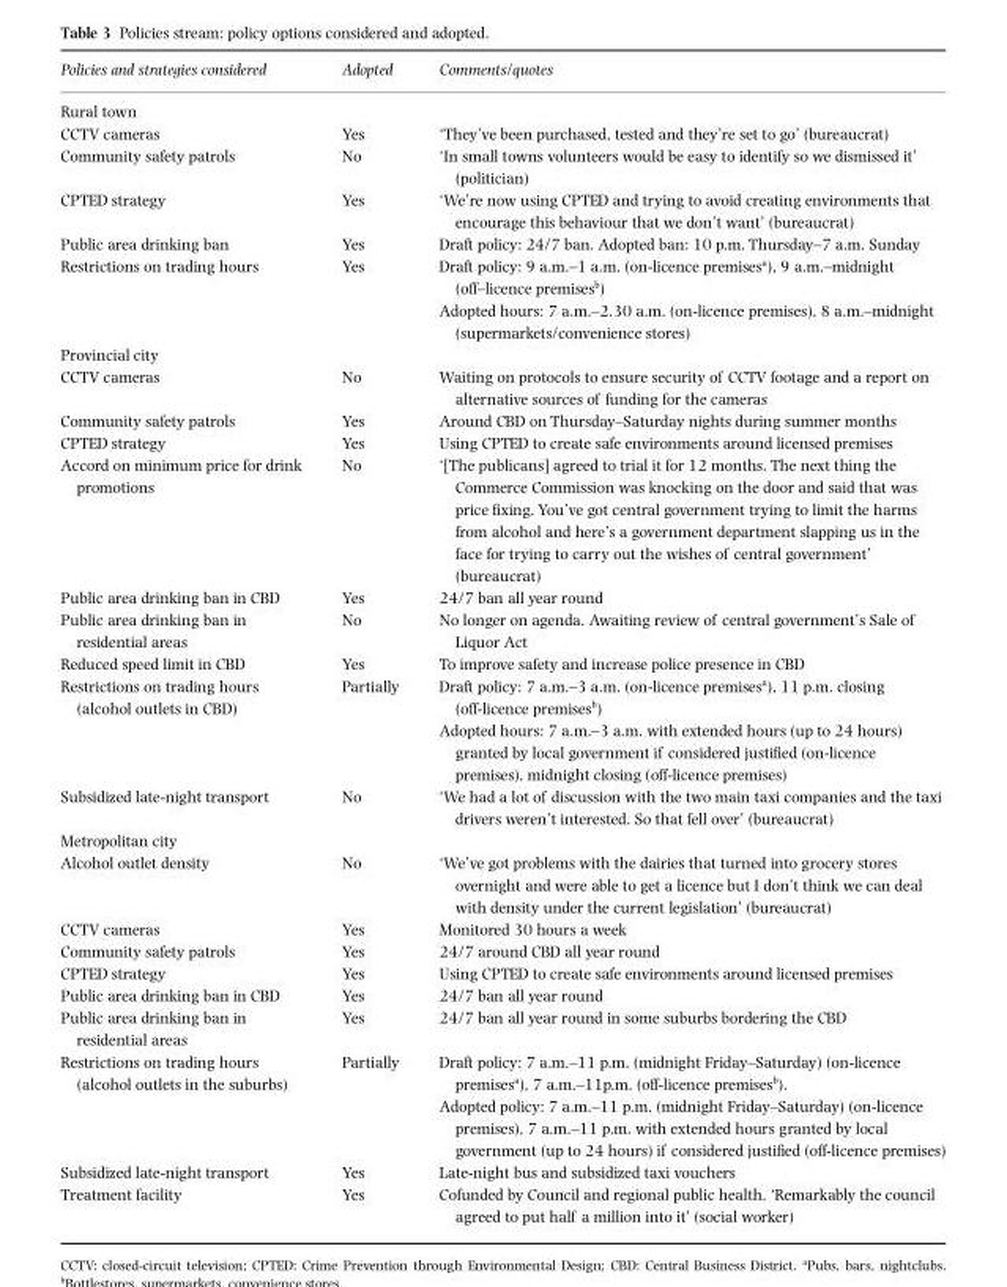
<table><thead><tr><td>Policies and strategies considered</td><td>Adopted</td><td>Comments/quotes</td></tr></thead><tbody><tr><td colspan="3">Rural town</td></tr><tr><td>CCTV cameras</td><td>Yes</td><td>‘They’ve been purchased, tested and they’re set to go’ (bureaucrat)</td></tr><tr><td>Community safety patrols</td><td>No</td><td>‘In small towns volunteers would be easy to identify so we dismissed it’ (politician)</td></tr><tr><td>CPTED strategy</td><td>Yes</td><td>‘We’re now using CPTED and trying to avoid creating environments that encourage this behaviour that we don’t want’ (bureaucrat)</td></tr><tr><td>Public area drinking ban</td><td>Yes</td><td>Draft policy: 24/7 ban. Adopted ban: 10 p.m. Thursday–7 a.m. Sunday</td></tr><tr><td>Restrictions on trading hours</td><td>Yes</td><td>Draft policy: 9 a.m.–1 a.m. (on-licence premises<sup>a</sup>), 9 a.m.–midnight (off–licence premises<sup>b</sup>) Adopted hours: 7 a.m.–2.30 a.m. (on-licence premises), 8 a.m.–midnight (supermarkets/convenience stores)</td></tr><tr><td colspan="3">Provincial city</td></tr><tr><td>CCTV cameras</td><td>No</td><td>Waiting on protocols to ensure security of CCTV footage and a report on alternative sources of funding for the cameras</td></tr><tr><td>Community safety patrols</td><td>Yes</td><td>Around CBD on Thursday–Saturday nights during summer months</td></tr><tr><td>CPTED strategy</td><td>Yes</td><td>Using CPTED to create safe environments around licensed premises</td></tr><tr><td>Accord on minimum price for drink promotions</td><td>No</td><td>‘[The publicans] agreed to trial it for 12 months. The next thing the Commerce Commission was knocking on the door and said that was price fixing. You’ve got central government trying to limit the harms from alcohol and here’s a government department slapping us in the face for trying to carry out the wishes of central government’ (bureaucrat)</td></tr><tr><td>Public area drinking ban in CBD</td><td>Yes</td><td>24/7 ban all year round</td></tr><tr><td>Public area drinking ban in residential areas</td><td>No</td><td>No longer on agenda. Awaiting review of central government’s Sale of Liquor Act</td></tr><tr><td>Reduced speed limit in CBD</td><td>Yes</td><td>To improve safety and increase police presence in CBD</td></tr><tr><td>Restrictions on trading hours (alcohol outlets in CBD)</td><td>Partially</td><td>Draft policy: 7 a.m.–3 a.m. (on-licence premises<sup>a</sup>), 11 p.m. closing (off-licence premises<sup>b</sup>) Adopted hours: 7 a.m.–3 a.m. with extended hours (up to 24 hours) granted by local government if considered justified (on-licence premises), midnight closing (off-licence premises)</td></tr><tr><td>Subsidized late-night transport</td><td>No</td><td>‘We had a lot of discussion with the two main taxi companies and the taxi drivers weren’t interested. So that fell over’ (bureaucrat)</td></tr><tr><td colspan="3">Metropolitan city</td></tr><tr><td>Alcohol outlet density</td><td>No</td><td>‘We’ve got problems with the dairies that turned into grocery stores overnight and were able to get a licence but I don’t think we can deal with density under the current legislation’ (bureaucrat)</td></tr><tr><td>CCTV cameras</td><td>Yes</td><td>Monitored 30 hours a week</td></tr><tr><td>Community safety patrols</td><td>Yes</td><td>24/7 around CBD all year round</td></tr><tr><td>CPTED strategy</td><td>Yes</td><td>Using CPTED to create safe environments around licensed premises</td></tr><tr><td>Public area drinking ban in CBD</td><td>Yes</td><td>24/7 ban all year round</td></tr><tr><td>Public area drinking ban in residential areas</td><td>Yes</td><td>24/7 ban all year round in some suburbs bordering the CBD</td></tr><tr><td>Restrictions on trading hours (alcohol outlets in the suburbs)</td><td>Partially</td><td>Draft policy: 7 a.m.–11 p.m. (midnight Friday–Saturday) (on-licence premises<sup>a</sup>), 7 a.m.–11p.m. (off-licence premises<sup>b</sup>). Adopted policy: 7 a.m.–11 p.m. (midnight Friday–Saturday) (on-licence premises), 7 a.m.–11 p.m. with extended hours granted by local government (up to 24 hours) if considered justified (off-licence premises)</td></tr><tr><td>Subsidized late-night transport</td><td>Yes</td><td>Late-night bus and subsidized taxi vouchers</td></tr><tr><td>Treatment facility</td><td>Yes</td><td>Cofunded by Council and regional public health. ‘Remarkably the council agreed to put half a million into it’ (social worker)</td></tr></tbody></table>